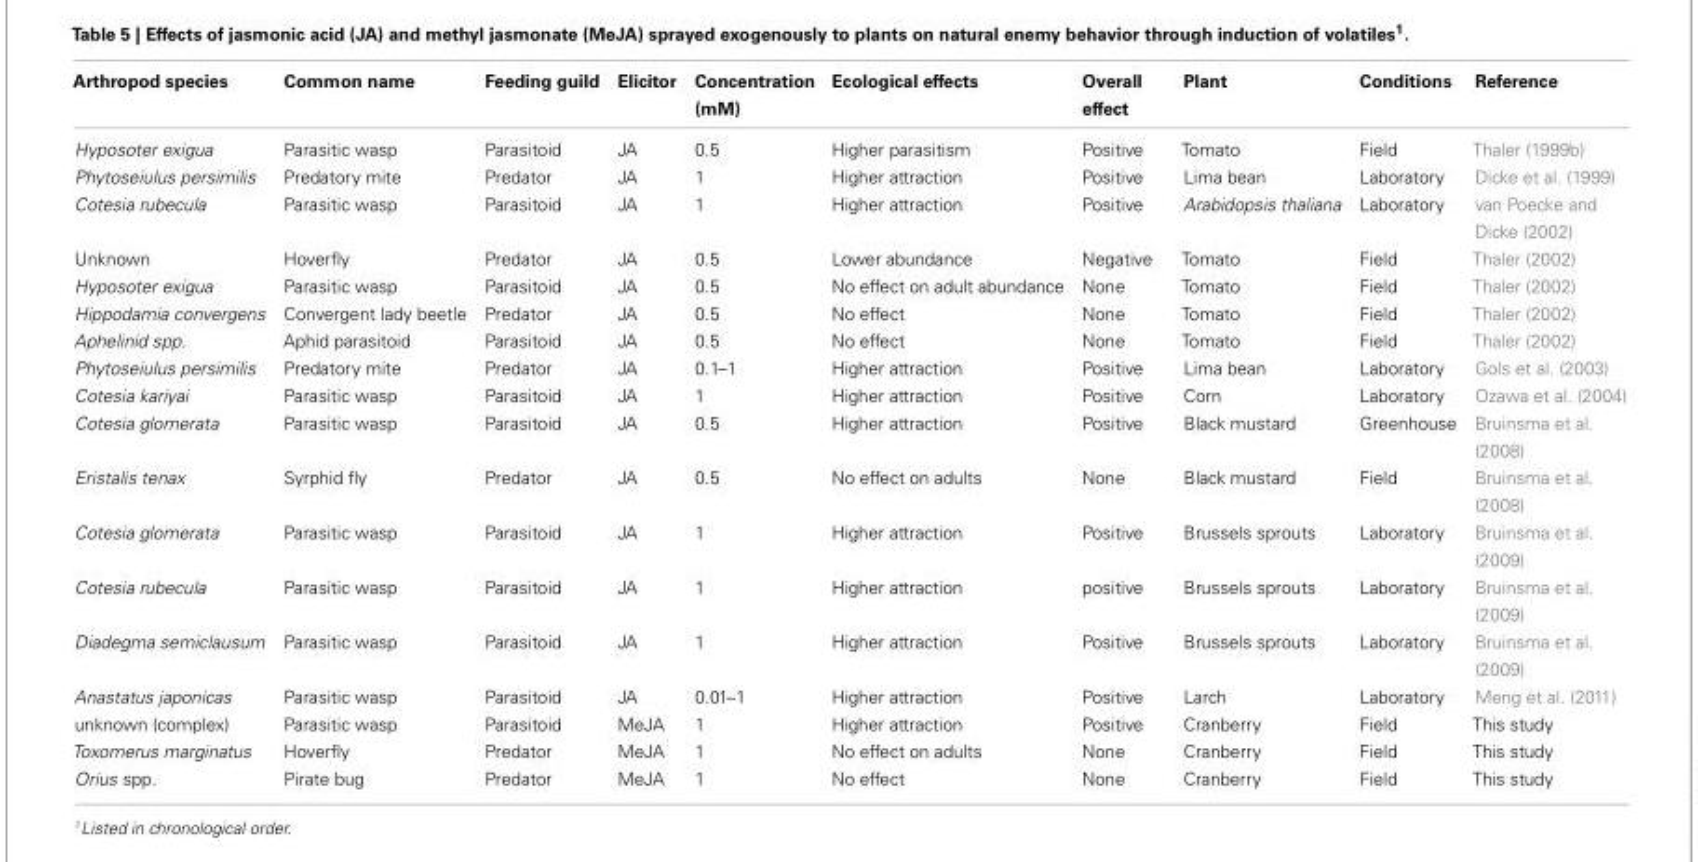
<table><thead><tr><td>Arthropod species</td><td>Common name</td><td>Feeding guild</td><td>Elicitor</td><td>Concentration (mM)</td><td>Ecological effects</td><td>Overall effect</td><td>Plant</td><td>Conditions</td><td>Reference</td></tr></thead><tbody><tr><td>Hyposoter exigua</td><td>Parasitic wasp</td><td>Parasitoid</td><td>JA</td><td>0.5</td><td>Higher parasitism</td><td>Positive</td><td>Tomato</td><td>Field</td><td>Thaler (1999b)</td></tr><tr><td>Phytoseiulus persimilis</td><td>Predatory mite</td><td>Predator</td><td>JA</td><td>1</td><td>Higher attraction</td><td>Positive</td><td>Lima bean</td><td>Laboratory</td><td>Dicke et al. (1999)</td></tr><tr><td>Cotesia rubecula</td><td>Parasitic wasp</td><td>Parasitoid</td><td>JA</td><td>1</td><td>Higher attraction</td><td>Positive</td><td>Arabidopsis thaliana</td><td>Laboratory</td><td>van Poecke and Dicke (2002)</td></tr><tr><td>Unknown</td><td>Hoverfly</td><td>Predator</td><td>JA</td><td>0.5</td><td>Lower abundance</td><td>Negative</td><td>Tomato</td><td>Field</td><td>Thaler (2002)</td></tr><tr><td>Hyposoter exigua</td><td>Parasitic wasp</td><td>Parasitoid</td><td>JA</td><td>0.5</td><td>No effect on adult abundance</td><td>None</td><td>Tomato</td><td>Field</td><td>Thaler (2002)</td></tr><tr><td>Hippodamia convergens</td><td>Convergent lady beetle</td><td>Predator</td><td>JA</td><td>0.5</td><td>No effect</td><td>None</td><td>Tomato</td><td>Field</td><td>Thaler (2002)</td></tr><tr><td>Aphelinid spp.</td><td>Aphid parasitoid</td><td>Parasitoid</td><td>JA</td><td>0.5</td><td>No effect</td><td>None</td><td>Tomato</td><td>Field</td><td>Thaler (2002)</td></tr><tr><td>Phytoseiulus persimilis</td><td>Predatory mite</td><td>Predator</td><td>JA</td><td>0.1–1</td><td>Higher attraction</td><td>Positive</td><td>Lima bean</td><td>Laboratory</td><td>Gols et al. (2003)</td></tr><tr><td>Cotesia kariyai</td><td>Parasitic wasp</td><td>Parasitoid</td><td>JA</td><td>1</td><td>Higher attraction</td><td>Positive</td><td>Corn</td><td>Laboratory</td><td>Ozawa et al. (2004)</td></tr><tr><td>Cotesia glomerata</td><td>Parasitic wasp</td><td>Parasitoid</td><td>JA</td><td>0.5</td><td>Higher attraction</td><td>Positive</td><td>Black mustard</td><td>Greenhouse</td><td>Bruinsma et al. (2008)</td></tr><tr><td>Eristalis tenax</td><td>Syrphid fly</td><td>Predator</td><td>JA</td><td>0.5</td><td>No effect on adults</td><td>None</td><td>Black mustard</td><td>Field</td><td>Bruinsma et al. (2008)</td></tr><tr><td>Cotesia glomerata</td><td>Parasitic wasp</td><td>Parasitoid</td><td>JA</td><td>1</td><td>Higher attraction</td><td>Positive</td><td>Brussels sprouts</td><td>Laboratory</td><td>Bruinsma et al. (2009)</td></tr><tr><td>Cotesia rubecula</td><td>Parasitic wasp</td><td>Parasitoid</td><td>JA</td><td>1</td><td>Higher attraction</td><td>positive</td><td>Brussels sprouts</td><td>Laboratory</td><td>Bruinsma et al. (2009)</td></tr><tr><td>Diadegma semiclausum</td><td>Parasitic wasp</td><td>Parasitoid</td><td>JA</td><td>1</td><td>Higher attraction</td><td>Positive</td><td>Brussels sprouts</td><td>Laboratory</td><td>Bruinsma et al. (2009)</td></tr><tr><td>Anastatus japonicas</td><td>Parasitic wasp</td><td>Parasitoid</td><td>JA</td><td>0.01–1</td><td>Higher attraction</td><td>Positive</td><td>Larch</td><td>Laboratory</td><td>Meng et al. (2011)</td></tr><tr><td>unknown (complex)</td><td>Parasitic wasp</td><td>Parasitoid</td><td>MeJA</td><td>1</td><td>Higher attraction</td><td>Positive</td><td>Cranberry</td><td>Field</td><td>This study</td></tr><tr><td>Toxomerus marginatus</td><td>Hoverfly</td><td>Predator</td><td>MeJA</td><td>1</td><td>No effect on adults</td><td>None</td><td>Cranberry</td><td>Field</td><td>This study</td></tr><tr><td>Orius spp.</td><td>Pirate bug</td><td>Predator</td><td>MeJA</td><td>1</td><td>No effect</td><td>None</td><td>Cranberry</td><td>Field</td><td>This study</td></tr></tbody></table>